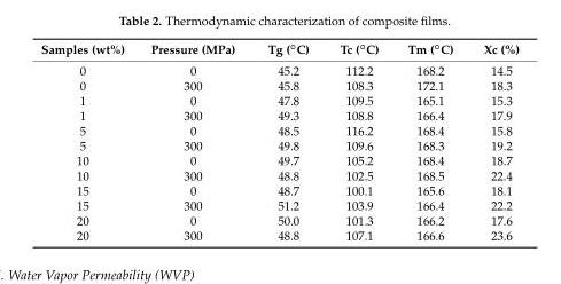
<table><thead><tr><td>Samples (wt%)</td><td>Pressure (MPa)</td><td>Tg (◦C)</td><td>Tc (◦C)</td><td>Tm (◦C)</td><td>Xc (%)</td></tr></thead><tbody><tr><td>0</td><td>0</td><td>45.2</td><td>112.2</td><td>168.2</td><td>14.5</td></tr><tr><td>0</td><td>300</td><td>45.8</td><td>108.3</td><td>172.1</td><td>18.3</td></tr><tr><td>1</td><td>0</td><td>47.8</td><td>109.5</td><td>165.1</td><td>15.3</td></tr><tr><td>1</td><td>300</td><td>49.3</td><td>108.8</td><td>166.4</td><td>17.9</td></tr><tr><td>5</td><td>0</td><td>48.5</td><td>116.2</td><td>168.4</td><td>15.8</td></tr><tr><td>5</td><td>300</td><td>49.8</td><td>109.6</td><td>168.3</td><td>19.2</td></tr><tr><td>10</td><td>0</td><td>49.7</td><td>105.2</td><td>168.4</td><td>18.7</td></tr><tr><td>10</td><td>300</td><td>48.8</td><td>102.5</td><td>168.5</td><td>22.4</td></tr><tr><td>15</td><td>0</td><td>48.7</td><td>100.1</td><td>165.6</td><td>18.1</td></tr><tr><td>15</td><td>300</td><td>51.2</td><td>103.9</td><td>166.4</td><td>22.2</td></tr><tr><td>20</td><td>0</td><td>50.0</td><td>101.3</td><td>166.2</td><td>17.6</td></tr><tr><td>20</td><td>300</td><td>48.8</td><td>107.1</td><td>166.6</td><td>23.6</td></tr></tbody></table>